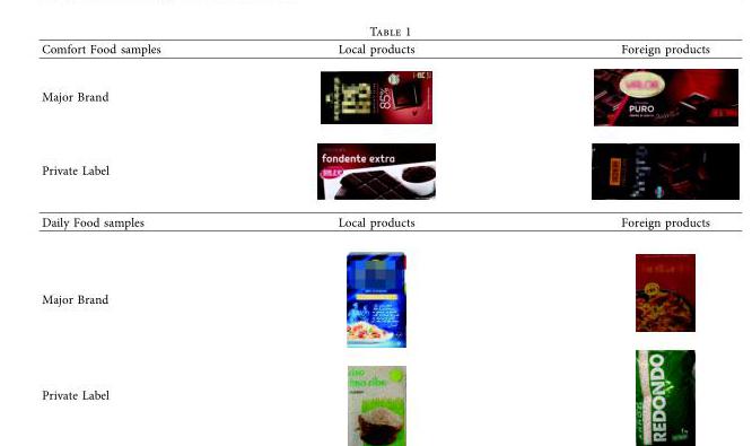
<table><tbody><tr><td>Comfort Food samples</td><td>Local products</td><td>Foreign products</td></tr><tr><td colspan="3">Major Brand</td></tr><tr><td colspan="3">Private Label</td></tr><tr><td>Daily Food samples</td><td>Local products</td><td>Foreign products</td></tr><tr><td colspan="3">Major Brand</td></tr><tr><td>Private Label</td><td></td><td></td></tr></tbody></table>